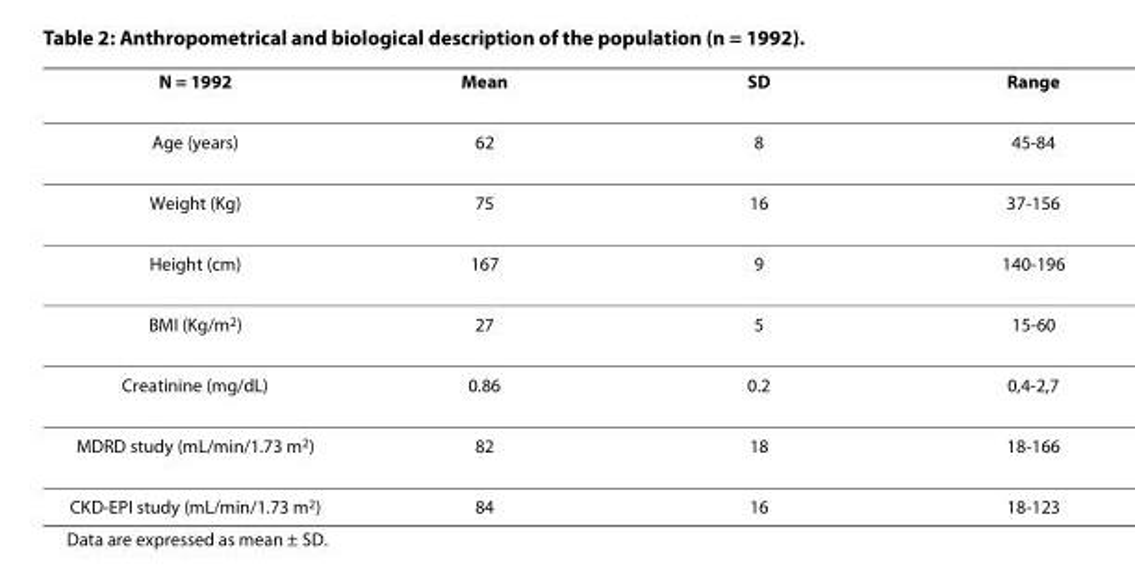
<table><thead><tr><td>N = 1992</td><td>Mean</td><td>SD</td><td>Range</td></tr></thead><tbody><tr><td>Age (years)</td><td>62</td><td>8</td><td>45-84</td></tr><tr><td>Weight (Kg)</td><td>75</td><td>16</td><td>37-156</td></tr><tr><td>Height (cm)</td><td>167</td><td>9</td><td>140-196</td></tr><tr><td>BMI (Kg/m<sup>2</sup>)</td><td>27</td><td>5</td><td>15-60</td></tr><tr><td>Creatinine (mg/dL)</td><td>0.86</td><td>0.2</td><td>0,4-2,7</td></tr><tr><td>MDRD study (mL/min/1.73 m<sup>2</sup>)</td><td>82</td><td>18</td><td>18-166</td></tr><tr><td>CKD-EPI study (mL/min/1.73 m<sup>2</sup>)</td><td>84</td><td>16</td><td>18-123</td></tr></tbody></table>